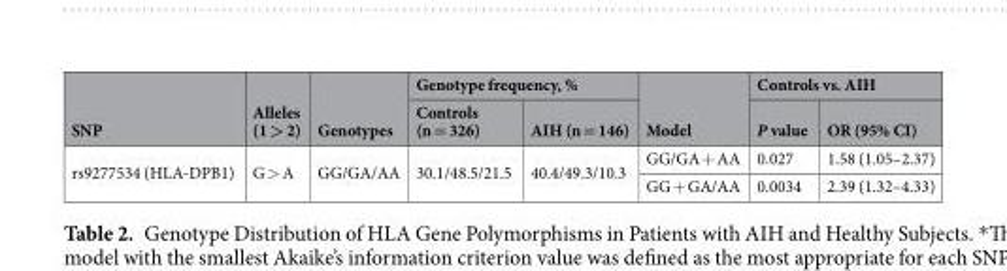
<table><thead><tr><td rowspan="2">SNP</td><td rowspan="2">Alleles (1 &gt; 2)</td><td rowspan="2">Genotypes</td><td colspan="2">Genotype frequency, %</td><td rowspan="2">Model</td><td colspan="2">Controls vs. AIH</td></tr><tr><td>Controls (n = 326)</td><td>AIH (n = 146)</td><td>P value</td><td>OR (95% CI)</td></tr></thead><tbody><tr><td rowspan="2">rs9277534 (HLA-DPB1)</td><td rowspan="2">G &gt; A</td><td rowspan="2">GG/GA/AA</td><td rowspan="2">30.1/48.5/21.5</td><td rowspan="2">40.4/49.3/10.3</td><td>GG/GA + AA</td><td>0.027</td><td>1.58 (1.05–2.37)</td></tr><tr><td>GG + GA/AA</td><td>0.0034</td><td>2.39 (1.32–4.33)</td></tr></tbody></table>